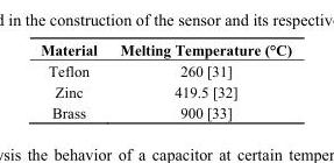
<table><thead><tr><td>Material</td><td>Melting Temperature (°C)</td></tr></thead><tbody><tr><td>Teflon</td><td>260 [31]</td></tr><tr><td>Zinc</td><td>419.5 [32]</td></tr><tr><td>Brass</td><td>900 [33]</td></tr></tbody></table>